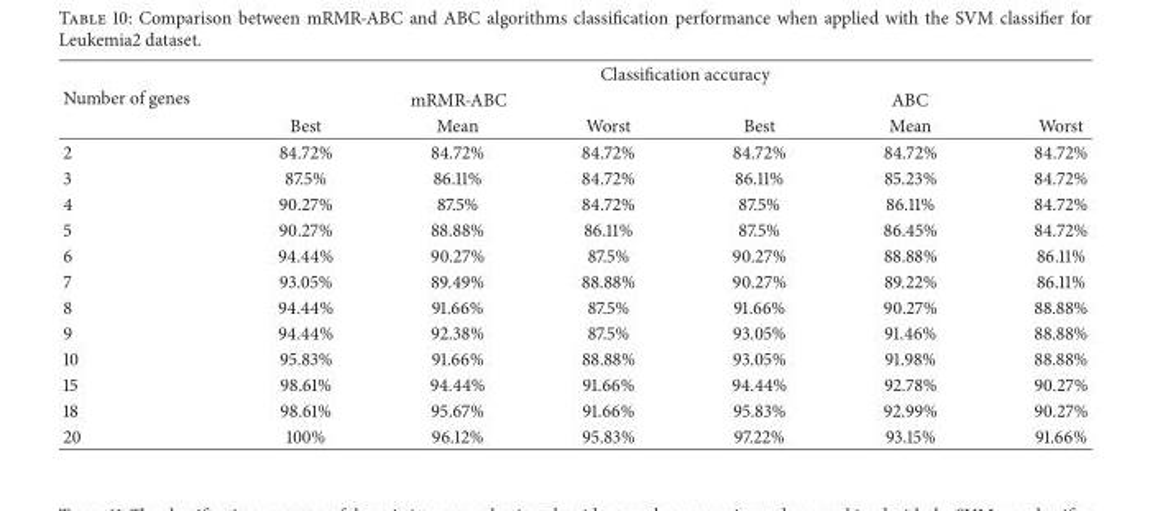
<table><thead><tr><td rowspan="3">Number of genes</td><td colspan="6">Classification accuracy</td></tr><tr><td colspan="3">mRMR-ABC</td><td colspan="3">ABC</td></tr><tr><td>Best</td><td>Mean</td><td>Worst</td><td>Best</td><td>Mean</td><td>Worst</td></tr></thead><tbody><tr><td>2</td><td>84.72%</td><td>84.72%</td><td>84.72%</td><td>84.72%</td><td>84.72%</td><td>84.72%</td></tr><tr><td>3</td><td>87.5%</td><td>86.11%</td><td>84.72%</td><td>86.11%</td><td>85.23%</td><td>84.72%</td></tr><tr><td>4</td><td>90.27%</td><td>87.5%</td><td>84.72%</td><td>87.5%</td><td>86.11%</td><td>84.72%</td></tr><tr><td>5</td><td>90.27%</td><td>88.88%</td><td>86.11%</td><td>87.5%</td><td>86.45%</td><td>84.72%</td></tr><tr><td>6</td><td>94.44%</td><td>90.27%</td><td>87.5%</td><td>90.27%</td><td>88.88%</td><td>86.11%</td></tr><tr><td>7</td><td>93.05%</td><td>89.49%</td><td>88.88%</td><td>90.27%</td><td>89.22%</td><td>86.11%</td></tr><tr><td>8</td><td>94.44%</td><td>91.66%</td><td>87.5%</td><td>91.66%</td><td>90.27%</td><td>88.88%</td></tr><tr><td>9</td><td>94.44%</td><td>92.38%</td><td>87.5%</td><td>93.05%</td><td>91.46%</td><td>88.88%</td></tr><tr><td>10</td><td>95.83%</td><td>91.66%</td><td>88.88%</td><td>93.05%</td><td>91.98%</td><td>88.88%</td></tr><tr><td>15</td><td>98.61%</td><td>94.44%</td><td>91.66%</td><td>94.44%</td><td>92.78%</td><td>90.27%</td></tr><tr><td>18</td><td>98.61%</td><td>95.67%</td><td>91.66%</td><td>95.83%</td><td>92.99%</td><td>90.27%</td></tr><tr><td>20</td><td>100%</td><td>96.12%</td><td>95.83%</td><td>97.22%</td><td>93.15%</td><td>91.66%</td></tr></tbody></table>